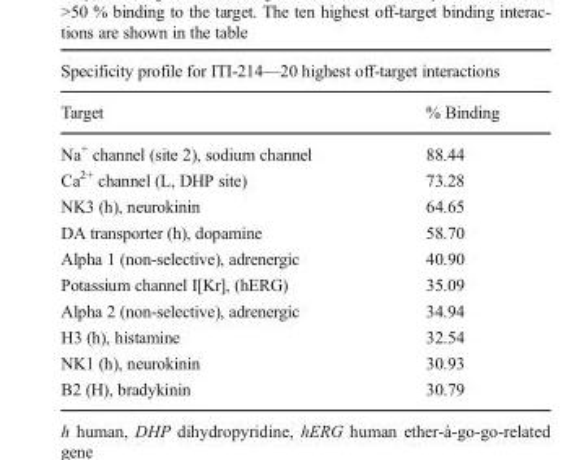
<table><thead><tr><td colspan="2">Specificity profile for ITI-214—20 highest off-target interactions</td></tr><tr><td>Target</td><td>% Binding</td></tr></thead><tbody><tr><td>Na<sup>+</sup> channel (site 2), sodium channel</td><td>88.44</td></tr><tr><td>Ca<sup>2+</sup> channel (L, DHP site)</td><td>73.28</td></tr><tr><td>NK3 (h), neurokinin</td><td>64.65</td></tr><tr><td>DA transporter (h), dopamine</td><td>58.70</td></tr><tr><td>Alpha 1 (non-selective), adrenergic</td><td>40.90</td></tr><tr><td>Potassium channel I[Kr], (hERG)</td><td>35.09</td></tr><tr><td>Alpha 2 (non-selective), adrenergic</td><td>34.94</td></tr><tr><td>H3 (h), histamine</td><td>32.54</td></tr><tr><td>NK1 (h), neurokinin</td><td>30.93</td></tr><tr><td>B2 (H), bradykinin</td><td>30.79</td></tr></tbody></table>